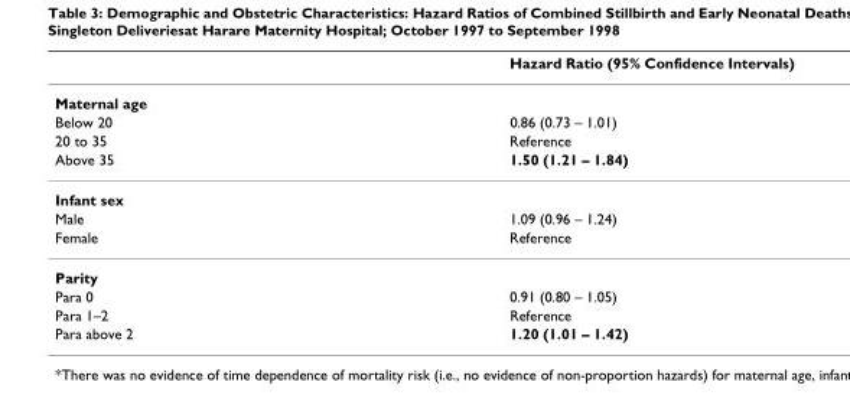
<table><thead><tr><td></td><td>Hazard Ratio (95% Confidence Intervals)</td></tr></thead><tbody><tr><td colspan="2">Maternal age</td></tr><tr><td>Below 20</td><td>0.86 (0.73 – 1.01)</td></tr><tr><td>20 to 35</td><td>Reference</td></tr><tr><td>Above 35</td><td>1.50 (1.21 – 1.84)</td></tr><tr><td colspan="2">Infant sex</td></tr><tr><td>Male</td><td>1.09 (0.96 – 1.24)</td></tr><tr><td>Female</td><td>Reference</td></tr><tr><td colspan="2">Parity</td></tr><tr><td>Para 0</td><td>0.91 (0.80 – 1.05)</td></tr><tr><td>Para 1–2</td><td>Reference</td></tr><tr><td>Para above 2</td><td>1.20 (1.01 – 1.42)</td></tr></tbody></table>